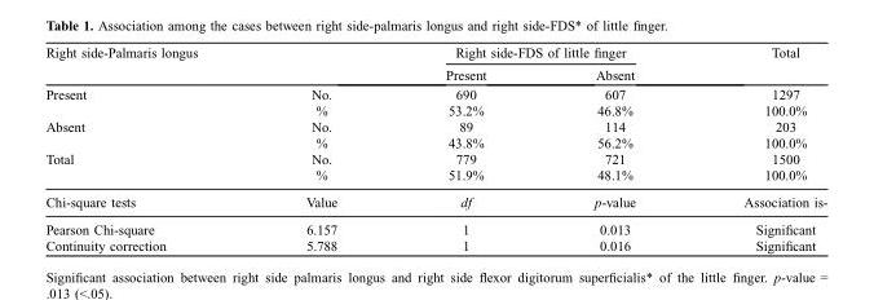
<table><thead><tr><td rowspan="2">Right side-Palmaris longus</td><td rowspan="2"></td><td colspan="2">Right side-FDS of little finger</td><td rowspan="2">Total</td></tr><tr><td>Present</td><td>Absent</td></tr></thead><tbody><tr><td rowspan="2">Present</td><td>No.</td><td>690</td><td>607</td><td>1297</td></tr><tr><td>%</td><td>53.2%</td><td>46.8%</td><td>100.0%</td></tr><tr><td rowspan="2">Absent</td><td>No.</td><td>89</td><td>114</td><td>203</td></tr><tr><td>%</td><td>43.8%</td><td>56.2%</td><td>100.0%</td></tr><tr><td rowspan="2">Total</td><td>No.</td><td>779</td><td>721</td><td>1500</td></tr><tr><td>%</td><td>51.9%</td><td>48.1%</td><td>100.0%</td></tr><tr><td>Chi-square tests</td><td>Value</td><td>df</td><td>p-value</td><td>Association is-</td></tr><tr><td>Pearson Chi-square</td><td>6.157</td><td>1</td><td>0.013</td><td>Significant</td></tr><tr><td>Continuity correction</td><td>5.788</td><td>1</td><td>0.016</td><td>Significant</td></tr></tbody></table>